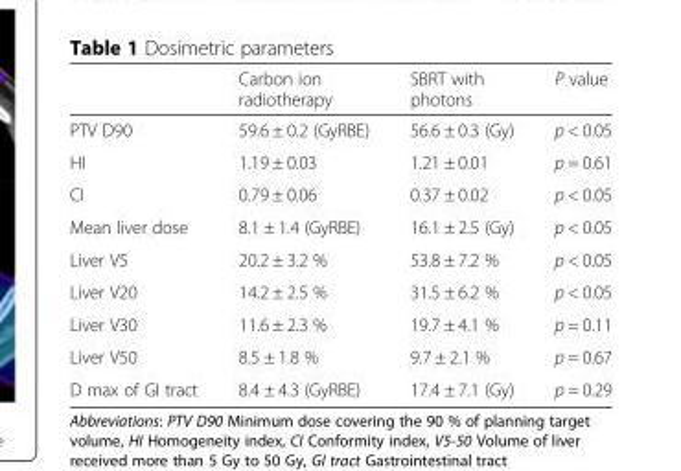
<table><thead><tr><td></td><td>Carbon ion radiotherapy</td><td>SBRT with photons</td><td>P value</td></tr></thead><tbody><tr><td>PTV D90</td><td>59.6 ± 0.2 (GyRBE)</td><td>56.6 ± 0.3 (Gy)</td><td>p &lt; 0.05</td></tr><tr><td>HI</td><td>1.19 ± 0.03</td><td>1.21 ± 0.01</td><td>p = 0.61</td></tr><tr><td>CI</td><td>0.79 ± 0.06</td><td>0.37 ± 0.02</td><td>p &lt; 0.05</td></tr><tr><td>Mean liver dose</td><td>8.1 ± 1.4 (GyRBE)</td><td>16.1 ± 2.5 (Gy)</td><td>p &lt; 0.05</td></tr><tr><td>Liver V5</td><td>20.2 ± 3.2 %</td><td>53.8 ± 7.2 %</td><td>p &lt; 0.05</td></tr><tr><td>Liver V20</td><td>14.2 ± 2.5 %</td><td>31.5 ± 6.2 %</td><td>p &lt; 0.05</td></tr><tr><td>Liver V30</td><td>11.6 ± 2.3 %</td><td>19.7 ± 4.1 %</td><td>p = 0.11</td></tr><tr><td>Liver V50</td><td>8.5 ± 1.8 %</td><td>9.7 ± 2.1 %</td><td>p = 0.67</td></tr><tr><td>D max of GI tract</td><td>8.4 ± 4.3 (GyRBE)</td><td>17.4 ± 7.1 (Gy)</td><td>p = 0.29</td></tr></tbody></table>